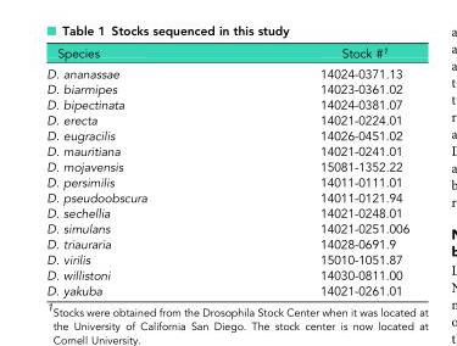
<table><thead><tr><td>Species</td><td>Stock #<sup>1</sup></td></tr></thead><tbody><tr><td>D. ananassae</td><td>14024-0371.13</td></tr><tr><td>D. biarmipes</td><td>14023-0361.02</td></tr><tr><td>D. bipectinata</td><td>14024-0381.07</td></tr><tr><td>D. erecta</td><td>14021-0224.01</td></tr><tr><td>D. eugracilis</td><td>14026-0451.02</td></tr><tr><td>D. mauritiana</td><td>14021-0241.01</td></tr><tr><td>D. mojavensis</td><td>15081-1352.22</td></tr><tr><td>D. persimilis</td><td>14011-0111.01</td></tr><tr><td>D. pseudoobscura</td><td>14011-0121.94</td></tr><tr><td>D. sechellia</td><td>14021-0248.01</td></tr><tr><td>D. simulans</td><td>14021-0251.006</td></tr><tr><td>D. triauraria</td><td>14028-0691.9</td></tr><tr><td>D. virilis</td><td>15010-1051.87</td></tr><tr><td>D. willistoni</td><td>14030-0811.00</td></tr><tr><td>D. yakuba</td><td>14021-0261.01</td></tr></tbody></table>